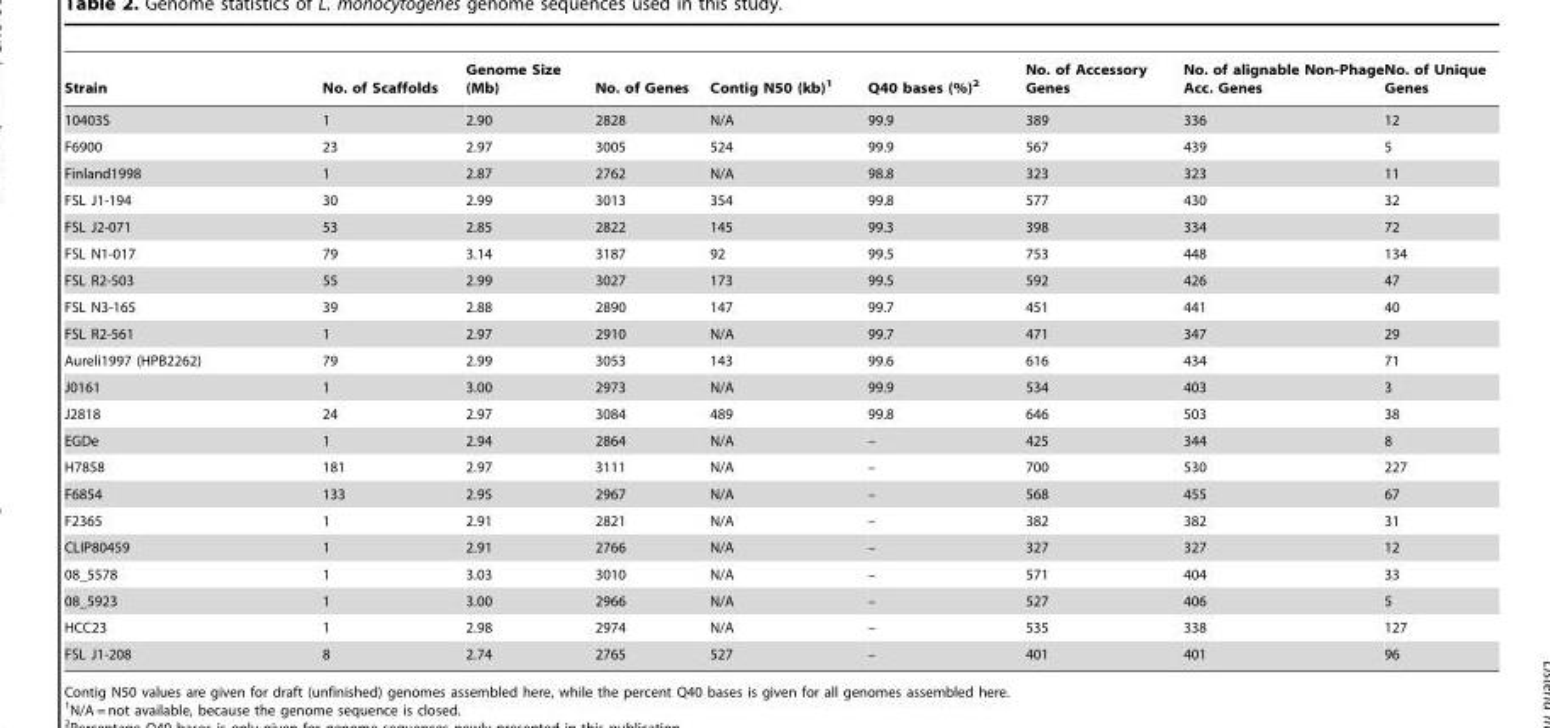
<table><thead><tr><td>Strain</td><td>No. of Scaffolds</td><td>Genome Size (Mb)</td><td>No. of Genes</td><td>Contig N50 (kb)<sup>1</sup></td><td>Q40 bases (%)<sup>2</sup></td><td>No. of Accessory Genes</td><td>No. of alignable Non-Phage Acc. Genes</td><td>No. of Unique Genes</td></tr></thead><tbody><tr><td>10403S</td><td>1</td><td>2.90</td><td>2828</td><td>N/A</td><td>99.9</td><td>389</td><td>336</td><td>12</td></tr><tr><td>F6900</td><td>23</td><td>2.97</td><td>3005</td><td>524</td><td>99.9</td><td>567</td><td>439</td><td>5</td></tr><tr><td>Finland1998</td><td>1</td><td>2.87</td><td>2762</td><td>N/A</td><td>98.8</td><td>323</td><td>323</td><td>11</td></tr><tr><td>FSL J1-194</td><td>30</td><td>2.99</td><td>3013</td><td>354</td><td>99.8</td><td>577</td><td>430</td><td>32</td></tr><tr><td>FSL J2-071</td><td>53</td><td>2.85</td><td>2822</td><td>145</td><td>99.3</td><td>398</td><td>334</td><td>72</td></tr><tr><td>FSL N1-017</td><td>79</td><td>3.14</td><td>3187</td><td>92</td><td>99.5</td><td>753</td><td>448</td><td>134</td></tr><tr><td>FSL R2-503</td><td>55</td><td>2.99</td><td>3027</td><td>173</td><td>99.5</td><td>592</td><td>426</td><td>47</td></tr><tr><td>FSL N3-165</td><td>39</td><td>2.88</td><td>2890</td><td>147</td><td>99.7</td><td>451</td><td>441</td><td>40</td></tr><tr><td>FSL R2-561</td><td>1</td><td>2.97</td><td>2910</td><td>N/A</td><td>99.7</td><td>471</td><td>347</td><td>29</td></tr><tr><td>Aureli1997 (HPB2262)</td><td>79</td><td>2.99</td><td>3053</td><td>143</td><td>99.6</td><td>616</td><td>434</td><td>71</td></tr><tr><td>J0161</td><td>1</td><td>3.00</td><td>2973</td><td>N/A</td><td>99.9</td><td>534</td><td>403</td><td>3</td></tr><tr><td>J2818</td><td>24</td><td>2.97</td><td>3084</td><td>489</td><td>99.8</td><td>646</td><td>503</td><td>38</td></tr><tr><td>EGDe</td><td>1</td><td>2.94</td><td>2864</td><td>N/A</td><td>–</td><td>425</td><td>344</td><td>8</td></tr><tr><td>H7858</td><td>181</td><td>2.97</td><td>3111</td><td>N/A</td><td>–</td><td>700</td><td>530</td><td>227</td></tr><tr><td>F6854</td><td>133</td><td>2.95</td><td>2967</td><td>N/A</td><td>–</td><td>568</td><td>455</td><td>67</td></tr><tr><td>F2365</td><td>1</td><td>2.91</td><td>2821</td><td>N/A</td><td>–</td><td>382</td><td>382</td><td>31</td></tr><tr><td>CLIP80459</td><td>1</td><td>2.91</td><td>2766</td><td>N/A</td><td>–</td><td>327</td><td>327</td><td>12</td></tr><tr><td>08_5578</td><td>1</td><td>3.03</td><td>3010</td><td>N/A</td><td>–</td><td>571</td><td>404</td><td>33</td></tr><tr><td>08_5923</td><td>1</td><td>3.00</td><td>2966</td><td>N/A</td><td>–</td><td>527</td><td>406</td><td>5</td></tr><tr><td>HCC23</td><td>1</td><td>2.98</td><td>2974</td><td>N/A</td><td>–</td><td>535</td><td>338</td><td>127</td></tr><tr><td>FSL J1-208</td><td>8</td><td>2.74</td><td>2765</td><td>527</td><td>–</td><td>401</td><td>401</td><td>96</td></tr></tbody></table>